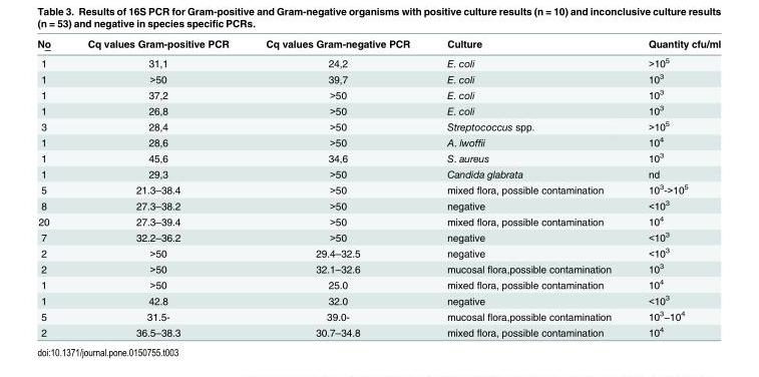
<table><thead><tr><td>No</td><td>Cq values Gram-positive PCR</td><td>Cq values Gram-negative PCR</td><td>Culture</td><td>Quantity cfu/ml</td></tr></thead><tbody><tr><td>1</td><td>31,1</td><td>24,2</td><td>E. coli</td><td>&gt;10<sup>5</sup></td></tr><tr><td>1</td><td>&gt;50</td><td>39,7</td><td>E. coli</td><td>10<sup>3</sup></td></tr><tr><td>1</td><td>37,2</td><td>&gt;50</td><td>E. coli</td><td>10<sup>3</sup></td></tr><tr><td>1</td><td>26,8</td><td>&gt;50</td><td>E. coli</td><td>10<sup>3</sup></td></tr><tr><td>3</td><td>28,4</td><td>&gt;50</td><td>Streptococcus spp.</td><td>&gt;10<sup>5</sup></td></tr><tr><td>1</td><td>28,6</td><td>&gt;50</td><td>A. lwoffii</td><td>10<sup>4</sup></td></tr><tr><td>1</td><td>45,6</td><td>34,6</td><td>S. aureus</td><td>10<sup>3</sup></td></tr><tr><td>1</td><td>29,3</td><td>&gt;50</td><td>Candida glabrata</td><td>nd</td></tr><tr><td>5</td><td>21.3–38.4</td><td>&gt;50</td><td>mixed flora, possible contamination</td><td>10<sup>3</sup>-&gt;10<sup>5</sup></td></tr><tr><td>8</td><td>27.3–38.2</td><td>&gt;50</td><td>negative</td><td>&lt;10<sup>3</sup></td></tr><tr><td>20</td><td>27.3–39.4</td><td>&gt;50</td><td>mixed flora, possible contamination</td><td>10<sup>4</sup></td></tr><tr><td>7</td><td>32.2–36.2</td><td>&gt;50</td><td>negative</td><td>&lt;10<sup>3</sup></td></tr><tr><td>2</td><td>&gt;50</td><td>29.4–32.5</td><td>negative</td><td>&lt;10<sup>3</sup></td></tr><tr><td>2</td><td>&gt;50</td><td>32.1–32.6</td><td>mucosal flora,possible contamination</td><td>10<sup>3</sup></td></tr><tr><td>1</td><td>&gt;50</td><td>25.0</td><td>mixed flora, possible contamination</td><td>10<sup>4</sup></td></tr><tr><td>1</td><td>42.8</td><td>32.0</td><td>negative</td><td>&lt;10<sup>3</sup></td></tr><tr><td>5</td><td>31.5-</td><td>39.0-</td><td>mucosal flora,possible contamination</td><td>10<sup>3</sup>−10<sup>4</sup></td></tr><tr><td>2</td><td>36.5–38.3</td><td>30.7–34.8</td><td>mixed flora, possible contamination</td><td>10<sup>4</sup></td></tr></tbody></table>